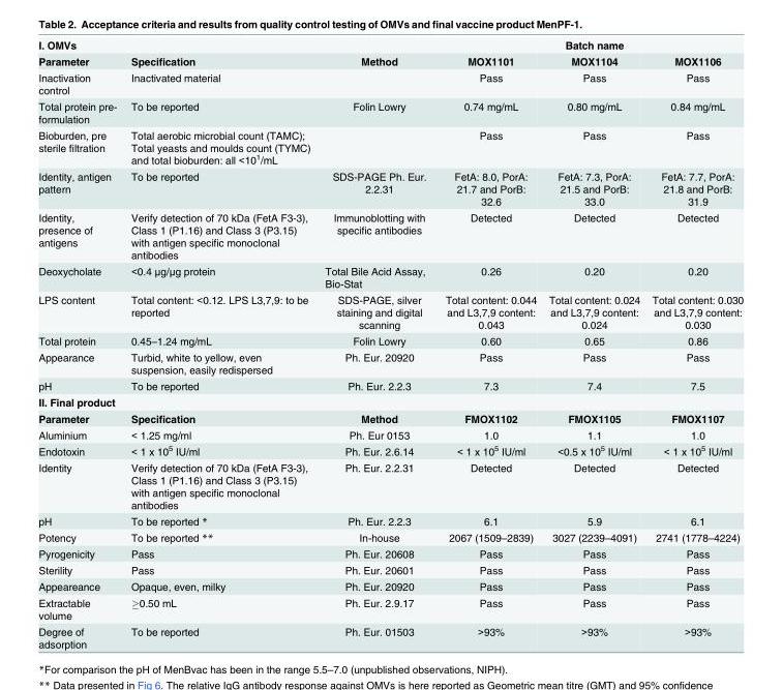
<table><tbody><tr><td>I. OMVs</td><td></td><td></td><td colspan="3">Batch name</td></tr><tr><td>Parameter</td><td>Specification</td><td>Method</td><td>MOX1101</td><td>MOX1104</td><td>MOX1106</td></tr><tr><td>Inactivation control</td><td>Inactivated material</td><td></td><td>Pass</td><td>Pass</td><td>Pass</td></tr><tr><td>Total protein pre- formulation</td><td>To be reported</td><td>Folin Lowry</td><td>0.74 mg/mL</td><td>0.80 mg/mL</td><td>0.84 mg/mL</td></tr><tr><td>Bioburden, pre sterile filtration</td><td>Total aerobic microbial count (TAMC); Total yeasts and moulds count (TYMC) and total bioburden: all &lt;10<sup>1</sup>/mL</td><td></td><td>Pass</td><td>Pass</td><td>Pass</td></tr><tr><td>Identity, antigen pattern</td><td>To be reported</td><td>SDS-PAGE Ph. Eur. 2.2.31</td><td>FetA: 8.0, PorA: 21.7 and PorB: 32.6</td><td>FetA: 7.3, PorA: 21.5 and PorB: 33.0</td><td>FetA: 7.7, PorA: 21.8 and PorB: 31.9</td></tr><tr><td>Identity, presence of antigens</td><td>Verify detection of 70 kDa (FetA F3-3), Class 1 (P1.16) and Class 3 (P3.15) with antigen specific monoclonal antibodies</td><td>Immunoblotting with specific antibodies</td><td>Detected</td><td>Detected</td><td>Detected</td></tr><tr><td>Deoxycholate</td><td>&lt;0.4 μg/μg protein</td><td>Total Bile Acid Assay, Bio-Stat</td><td>0.26</td><td>0.20</td><td>0.20</td></tr><tr><td>LPS content</td><td>Total content: &lt;0.12. LPS L3,7,9: to be reported</td><td>SDS-PAGE, silver staining and digital scanning</td><td>Total content: 0.044 and L3,7,9 content: 0.043</td><td>Total content: 0.024 and L3,7,9 content: 0.024</td><td>Total content: 0.030 and L3,7,9 content: 0.030</td></tr><tr><td>Total protein</td><td>0.45–1.24 mg/mL</td><td>Folin Lowry</td><td>0.60</td><td>0.65</td><td>0.86</td></tr><tr><td>Appearance</td><td>Turbid, white to yellow, even suspension, easily redispersed</td><td>Ph. Eur. 20920</td><td>Pass</td><td>Pass</td><td>Pass</td></tr><tr><td>pH</td><td>To be reported</td><td>Ph. Eur. 2.2.3</td><td>7.3</td><td>7.4</td><td>7.5</td></tr><tr><td colspan="6">II. Final product</td></tr><tr><td>Parameter</td><td>Specification</td><td>Method</td><td>FMOX1102</td><td>FMOX1105</td><td>FMOX1107</td></tr><tr><td>Aluminium</td><td>&lt; 1.25 mg/ml</td><td>Ph. Eur 0153</td><td>1.0</td><td>1.1</td><td>1.0</td></tr><tr><td>Endotoxin</td><td>&lt; 1 x 10<sup>5</sup> IU/ml</td><td>Ph. Eur. 2.6.14</td><td>&lt; 1 x 10<sup>5</sup> IU/ml</td><td>&lt;0.5 x 10<sup>5</sup> IU/ml</td><td>&lt; 1 x 10<sup>5</sup> IU/ml</td></tr><tr><td>Identity</td><td>Verify detection of 70 kDa (FetA F3-3), Class 1 (P1.16) and Class 3 (P3.15) with antigen specific monoclonal antibodies</td><td>Ph. Eur. 2.2.31</td><td>Detected</td><td>Detected</td><td>Detected</td></tr><tr><td>pH</td><td>To be reported *</td><td>Ph. Eur. 2.2.3</td><td>6.1</td><td>5.9</td><td>6.1</td></tr><tr><td>Potency</td><td>To be reported **</td><td>In-house</td><td>2067 (1509–2839)</td><td>3027 (2239–4091)</td><td>2741 (1778–4224)</td></tr><tr><td>Pyrogenicity</td><td>Pass</td><td>Ph. Eur. 20608</td><td>Pass</td><td>Pass</td><td>Pass</td></tr><tr><td>Sterility</td><td>Pass</td><td>Ph. Eur. 20601</td><td>Pass</td><td>Pass</td><td>Pass</td></tr><tr><td>Appeareance</td><td>Opaque, even, milky</td><td>Ph. Eur. 20920</td><td>Pass</td><td>Pass</td><td>Pass</td></tr><tr><td>Extractable volume</td><td>≥0.50 mL</td><td>Ph. Eur. 2.9.17</td><td>Pass</td><td>Pass</td><td>Pass</td></tr><tr><td>Degree of adsorption</td><td>To be reported</td><td>Ph. Eur. 01503</td><td>&gt;93%</td><td>&gt;93%</td><td>&gt;93%</td></tr></tbody></table>